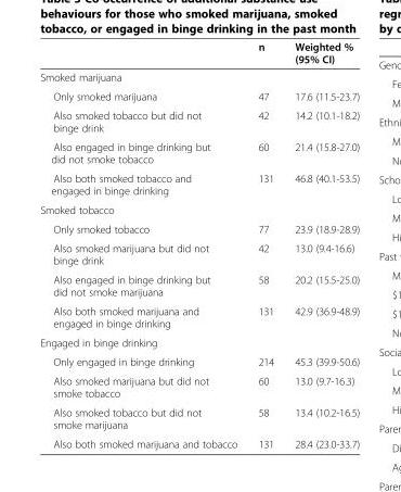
<table><thead><tr><td></td><td>n</td><td>Weighted % (95% CI)</td></tr></thead><tbody><tr><td colspan="3">Smoked marijuana</td></tr><tr><td>Only smoked marijuana</td><td>47</td><td>17.6 (11.5-23.7)</td></tr><tr><td>Also smoked tobacco but did not binge drink</td><td>42</td><td>14.2 (10.1-18.2)</td></tr><tr><td>Also engaged in binge drinking but did not smoke tobacco</td><td>60</td><td>21.4 (15.8-27.0)</td></tr><tr><td>Also both smoked tobacco and engaged in binge drinking</td><td>131</td><td>46.8 (40.1-53.5)</td></tr><tr><td colspan="3">Smoked tobacco</td></tr><tr><td>Only smoked tobacco</td><td>77</td><td>23.9 (18.9-28.9)</td></tr><tr><td>Also smoked marijuana but did not binge drink</td><td>42</td><td>13.0 (9.4-16.6)</td></tr><tr><td>Also engaged in binge drinking but did not smoke marijuana</td><td>58</td><td>20.2 (15.5-25.0)</td></tr><tr><td>Also both smoked marijuana and engaged in binge drinking</td><td>131</td><td>42.9 (36.9-48.9)</td></tr><tr><td colspan="3">Engaged in binge drinking</td></tr><tr><td>Only engaged in binge drinking</td><td>214</td><td>45.3 (39.9-50.6)</td></tr><tr><td>Also smoked marijuana but did not smoke tobacco</td><td>60</td><td>13.0 (9.7-16.3)</td></tr><tr><td>Also smoked tobacco but did not smoke marijuana</td><td>58</td><td>13.4 (10.2-16.5)</td></tr><tr><td>Also both smoked marijuana and tobacco</td><td>131</td><td>28.4 (23.0-33.7)</td></tr></tbody></table>